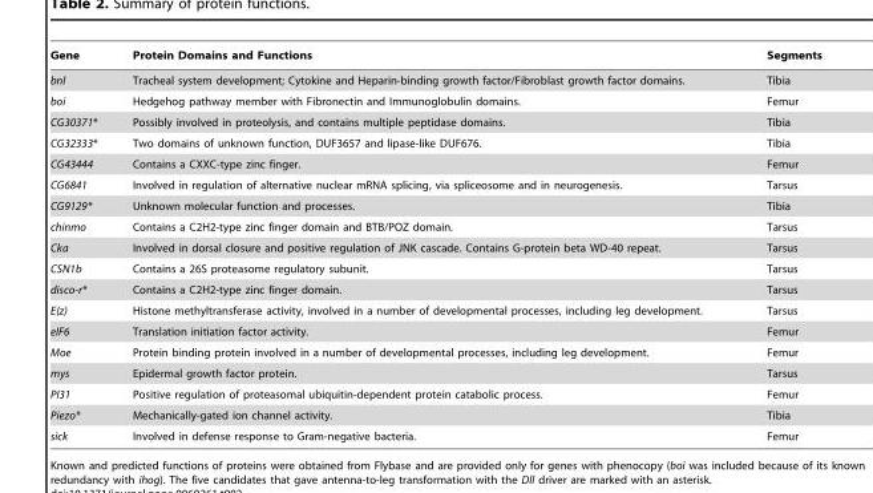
<table><thead><tr><td>Gene</td><td>Protein Domains and Functions</td><td>Segments</td></tr></thead><tbody><tr><td>bnl</td><td>Tracheal system development; Cytokine and Heparin-binding growth factor/Fibroblast growth factor domains.</td><td>Tibia</td></tr><tr><td>boi</td><td>Hedgehog pathway member with Fibronectin and Immunoglobulin domains.</td><td>Femur</td></tr><tr><td>CG30371*</td><td>Possibly involved in proteolysis, and contains multiple peptidase domains.</td><td>Tibia</td></tr><tr><td>CG32333*</td><td>Two domains of unknown function, DUF3657 and lipase-like DUF676.</td><td>Tibia</td></tr><tr><td>CG43444</td><td>Contains a CXXC-type zinc finger.</td><td>Femur</td></tr><tr><td>CG6841</td><td>Involved in regulation of alternative nuclear mRNA splicing, via spliceosome and in neurogenesis.</td><td>Tarsus</td></tr><tr><td>CG9129*</td><td>Unknown molecular function and processes.</td><td>Tibia</td></tr><tr><td>chinmo</td><td>Contains a C2H2-type zinc finger domain and BTB/POZ domain.</td><td>Tarsus</td></tr><tr><td>Cka</td><td>Involved in dorsal closure and positive regulation of JNK cascade. Contains G-protein beta WD-40 repeat.</td><td>Tarsus</td></tr><tr><td>CSN1b</td><td>Contains a 26S proteasome regulatory subunit.</td><td>Tarsus</td></tr><tr><td>disco-r*</td><td>Contains a C2H2-type zinc finger domain.</td><td>Tarsus</td></tr><tr><td>E(z)</td><td>Histone methyltransferase activity, involved in a number of developmental processes, including leg development.</td><td>Tarsus</td></tr><tr><td>eIF6</td><td>Translation initiation factor activity.</td><td>Femur</td></tr><tr><td>Moe</td><td>Protein binding protein involved in a number of developmental processes, including leg development.</td><td>Femur</td></tr><tr><td>mys</td><td>Epidermal growth factor protein.</td><td>Tarsus</td></tr><tr><td>PI31</td><td>Positive regulation of proteasomal ubiquitin-dependent protein catabolic process.</td><td>Femur</td></tr><tr><td>Piezo*</td><td>Mechanically-gated ion channel activity.</td><td>Tibia</td></tr><tr><td>sick</td><td>Involved in defense response to Gram-negative bacteria.</td><td>Femur</td></tr></tbody></table>